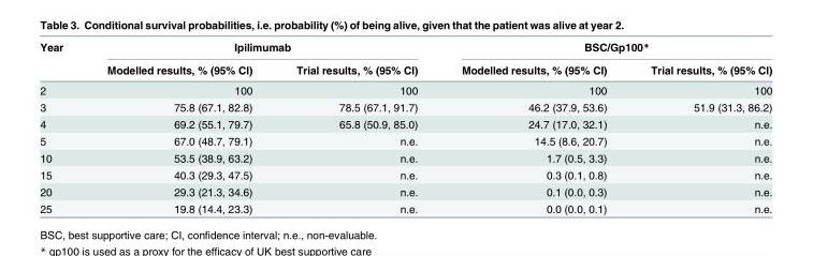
<table><thead><tr><td rowspan="2">Year</td><td colspan="2">Ipilimumab</td><td colspan="2">BSC/Gp100*</td></tr><tr><td>Modelled results, % (95% CI)</td><td>Trial results, % (95% CI)</td><td>Modelled results, % (95% CI)</td><td>Trial results, % (95% CI)</td></tr></thead><tbody><tr><td>2</td><td>100</td><td>100</td><td>100</td><td>100</td></tr><tr><td>3</td><td>75.8 (67.1, 82.8)</td><td>78.5 (67.1, 91.7)</td><td>46.2 (37.9, 53.6)</td><td>51.9 (31.3, 86.2)</td></tr><tr><td>4</td><td>69.2 (55.1, 79.7)</td><td>65.8 (50.9, 85.0)</td><td>24.7 (17.0, 32.1)</td><td>n.e.</td></tr><tr><td>5</td><td>67.0 (48.7, 79.1)</td><td>n.e.</td><td>14.5 (8.6, 20.7)</td><td>n.e.</td></tr><tr><td>10</td><td>53.5 (38.9, 63.2)</td><td>n.e.</td><td>1.7 (0.5, 3.3)</td><td>n.e.</td></tr><tr><td>15</td><td>40.3 (29.3, 47.5)</td><td>n.e.</td><td>0.3 (0.1, 0.8)</td><td>n.e.</td></tr><tr><td>20</td><td>29.3 (21.3, 34.6)</td><td>n.e.</td><td>0.1 (0.0, 0.3)</td><td>n.e.</td></tr><tr><td>25</td><td>19.8 (14.4, 23.3)</td><td>n.e.</td><td>0.0 (0.0, 0.1)</td><td>n.e.</td></tr></tbody></table>